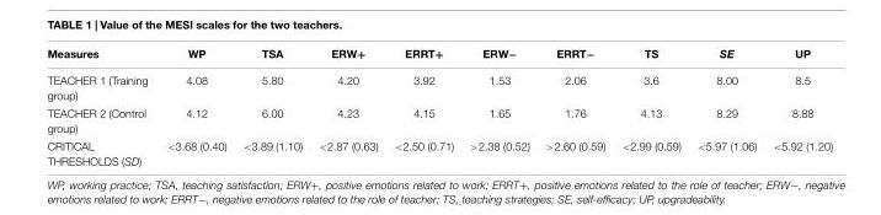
<table><thead><tr><td>Measures</td><td>WP</td><td>TSA</td><td>ERW+</td><td>ERRT+</td><td>ERW−</td><td>ERRT−</td><td>TS</td><td>SE</td><td>UP</td></tr></thead><tbody><tr><td>TEACHER 1 (Training group)</td><td>4.08</td><td>5.80</td><td>4.20</td><td>3.92</td><td>1.53</td><td>2.06</td><td>3.6</td><td>8.00</td><td>8.5</td></tr><tr><td>TEACHER 2 (Control group)</td><td>4.12</td><td>6.00</td><td>4.23</td><td>4.15</td><td>1.65</td><td>1.76</td><td>4.13</td><td>8.29</td><td>8.88</td></tr><tr><td>CRITICAL THRESHOLDS (SD)</td><td>&lt;3.68 (0.40)</td><td>&lt;3.89 (1.10)</td><td>&lt;2.87 (0.63)</td><td>&lt;2.50 (0.71)</td><td>&gt;2.38 (0.52)</td><td>&gt;2.60 (0.59)</td><td>&lt;2.99 (0.59)</td><td>&lt;5.97 (1.06)</td><td>&lt;5.92 (1.20)</td></tr></tbody></table>